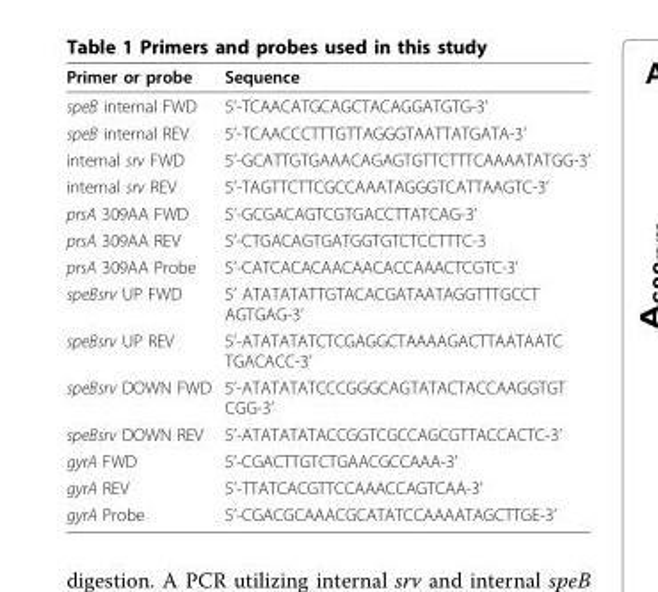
<table><thead><tr><td>Primer or probe</td><td>Sequence</td></tr></thead><tbody><tr><td>speB internal FWD</td><td>5’-TCAACATGCAGCTACAGGATGTG-3’</td></tr><tr><td>speB internal REV</td><td>5’-TCAACCCTTTGTTAGGGTAATTATGATA-3’</td></tr><tr><td>internal srv FWD</td><td>5’-GCATTGTGAAACAGAGTGTTCTTTCAAAATATGG-3’</td></tr><tr><td>internal srv REV</td><td>5’-TAGTTCTTCGCCAAATAGGGTCATTAAGTC-3’</td></tr><tr><td>prsA 309AA FWD</td><td>5’-GCGACAGTCGTGACCTTATCAG-3’</td></tr><tr><td>prsA 309AA REV</td><td>5’-CTGACAGTGATGGTGTCTCCTTTC-3</td></tr><tr><td>prsA 309AA Probe</td><td>5’-CATCACACAACAACACCAAACTCGTC-3’</td></tr><tr><td>speBsrv UP FWD</td><td>5’ ATATATATTGTACACGATAATAGGTTTGCCT AGTGAG-3’</td></tr><tr><td>speBsrv UP REV</td><td>5’-ATATATATCTCGAGGCTAAAAGACTTAATAATC TGACACC-3’</td></tr><tr><td>speBsrv DOWN FWD</td><td>5’-ATATATATCCCGGGCAGTATACTACCAAGGTGT CGG-3’</td></tr><tr><td>speBsrv DOWN REV</td><td>5’-ATATATATACCGGTCGCCAGCGTTACCACTC-3’</td></tr><tr><td>gyrA FWD</td><td>5’-CGACTTGTCTGAACGCCAAA-3’</td></tr><tr><td>gyrA REV</td><td>5’-TTATCACGTTCCAAACCAGTCAA-3’</td></tr><tr><td>gyrA Probe</td><td>5’-CGACGCAAACGCATATCCAAAATAGCTTGE-3’</td></tr></tbody></table>